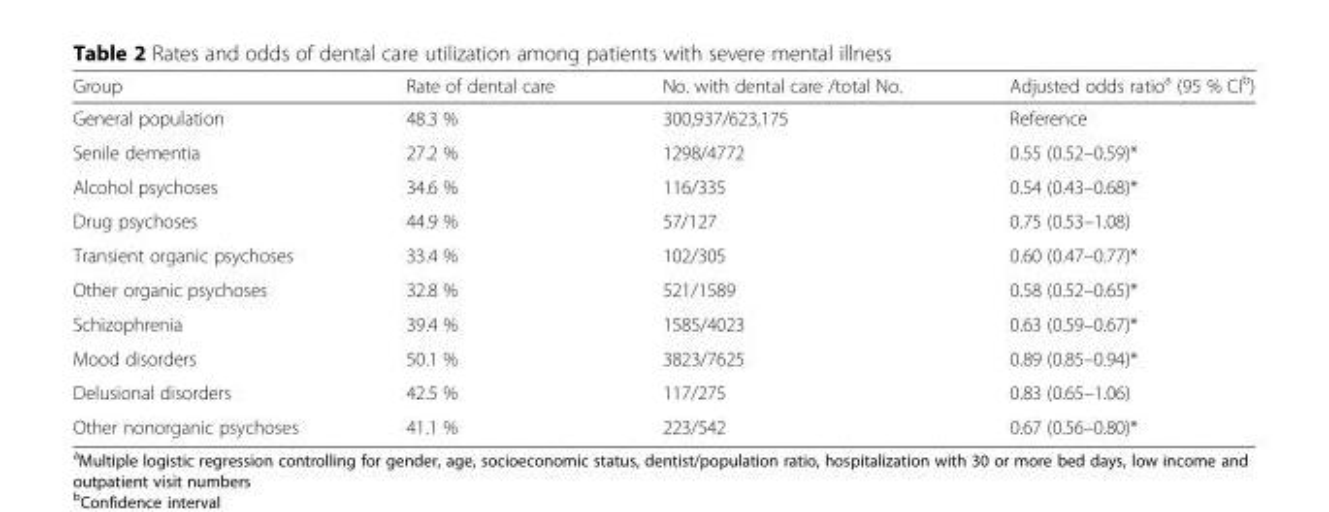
<table><thead><tr><td>Group</td><td>Rate of dental care</td><td>No. with dental care /total No.</td><td>Adjusted odds ratio<sup>a</sup> (95 % CI<sup>b</sup>)</td></tr></thead><tbody><tr><td>General population</td><td>48.3 %</td><td>300,937/623,175</td><td>Reference</td></tr><tr><td>Senile dementia</td><td>27.2 %</td><td>1298/4772</td><td>0.55 (0.52–0.59)*</td></tr><tr><td>Alcohol psychoses</td><td>34.6 %</td><td>116/335</td><td>0.54 (0.43–0.68)*</td></tr><tr><td>Drug psychoses</td><td>44.9 %</td><td>57/127</td><td>0.75 (0.53–1.08)</td></tr><tr><td>Transient organic psychoses</td><td>33.4 %</td><td>102/305</td><td>0.60 (0.47–0.77)*</td></tr><tr><td>Other organic psychoses</td><td>32.8 %</td><td>521/1589</td><td>0.58 (0.52–0.65)*</td></tr><tr><td>Schizophrenia</td><td>39.4 %</td><td>1585/4023</td><td>0.63 (0.59–0.67)*</td></tr><tr><td>Mood disorders</td><td>50.1 %</td><td>3823/7625</td><td>0.89 (0.85–0.94)*</td></tr><tr><td>Delusional disorders</td><td>42.5 %</td><td>117/275</td><td>0.83 (0.65–1.06)</td></tr><tr><td>Other nonorganic psychoses</td><td>41.1 %</td><td>223/542</td><td>0.67 (0.56–0.80)*</td></tr></tbody></table>